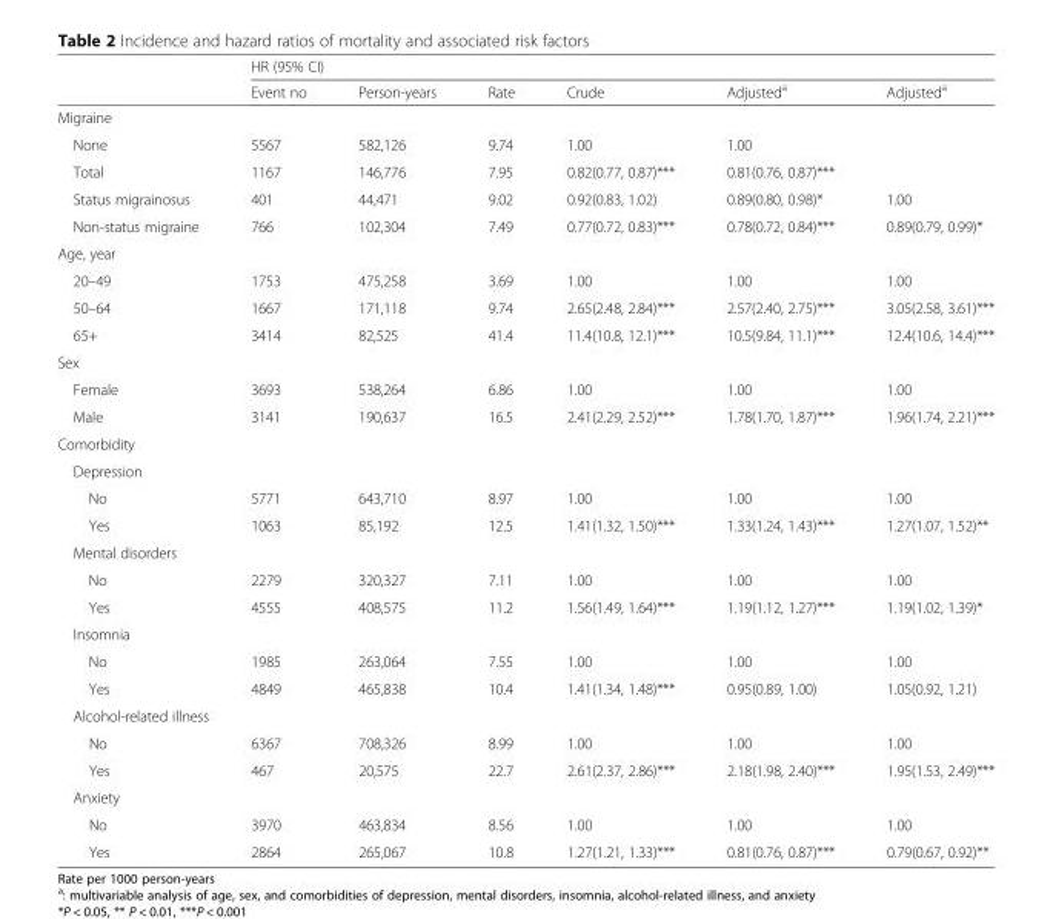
<table><thead><tr><td rowspan="2"></td><td colspan="6">HR (95% CI)</td></tr><tr><td>Event no</td><td>Person-years</td><td>Rate</td><td>Crude</td><td>Adjusted<sup>a</sup></td><td>Adjusted<sup>a</sup></td></tr></thead><tbody><tr><td colspan="7">Migraine</td></tr><tr><td>None</td><td>5567</td><td>582,126</td><td>9.74</td><td>1.00</td><td>1.00</td><td></td></tr><tr><td>Total</td><td>1167</td><td>146,776</td><td>7.95</td><td>0.82(0.77, 0.87)***</td><td>0.81(0.76, 0.87)***</td><td></td></tr><tr><td>Status migrainosus</td><td>401</td><td>44,471</td><td>9.02</td><td>0.92(0.83, 1.02)</td><td>0.89(0.80, 0.98)*</td><td>1.00</td></tr><tr><td>Non-status migraine</td><td>766</td><td>102,304</td><td>7.49</td><td>0.77(0.72, 0.83)***</td><td>0.78(0.72, 0.84)***</td><td>0.89(0.79, 0.99)*</td></tr><tr><td colspan="7">Age, year</td></tr><tr><td>20–49</td><td>1753</td><td>475,258</td><td>3.69</td><td>1.00</td><td>1.00</td><td>1.00</td></tr><tr><td>50–64</td><td>1667</td><td>171,118</td><td>9.74</td><td>2.65(2.48, 2.84)***</td><td>2.57(2.40, 2.75)***</td><td>3.05(2.58, 3.61)***</td></tr><tr><td>65+</td><td>3414</td><td>82,525</td><td>41.4</td><td>11.4(10.8, 12.1)***</td><td>10.5(9.84, 11.1)***</td><td>12.4(10.6, 14.4)***</td></tr><tr><td colspan="7">Sex</td></tr><tr><td>Female</td><td>3693</td><td>538,264</td><td>6.86</td><td>1.00</td><td>1.00</td><td>1.00</td></tr><tr><td>Male</td><td>3141</td><td>190,637</td><td>16.5</td><td>2.41(2.29, 2.52)***</td><td>1.78(1.70, 1.87)***</td><td>1.96(1.74, 2.21)***</td></tr><tr><td colspan="7">Comorbidity</td></tr><tr><td colspan="7">Depression</td></tr><tr><td>No</td><td>5771</td><td>643,710</td><td>8.97</td><td>1.00</td><td>1.00</td><td>1.00</td></tr><tr><td>Yes</td><td>1063</td><td>85,192</td><td>12.5</td><td>1.41(1.32, 1.50)***</td><td>1.33(1.24, 1.43)***</td><td>1.27(1.07, 1.52)**</td></tr><tr><td colspan="7">Mental disorders</td></tr><tr><td>No</td><td>2279</td><td>320,327</td><td>7.11</td><td>1.00</td><td>1.00</td><td>1.00</td></tr><tr><td>Yes</td><td>4555</td><td>408,575</td><td>11.2</td><td>1.56(1.49, 1.64)***</td><td>1.19(1.12, 1.27)***</td><td>1.19(1.02, 1.39)*</td></tr><tr><td colspan="7">Insomnia</td></tr><tr><td>No</td><td>1985</td><td>263,064</td><td>7.55</td><td>1.00</td><td>1.00</td><td>1.00</td></tr><tr><td>Yes</td><td>4849</td><td>465,838</td><td>10.4</td><td>1.41(1.34, 1.48)***</td><td>0.95(0.89, 1.00)</td><td>1.05(0.92, 1.21)</td></tr><tr><td colspan="7">Alcohol-related illness</td></tr><tr><td>No</td><td>6367</td><td>708,326</td><td>8.99</td><td>1.00</td><td>1.00</td><td>1.00</td></tr><tr><td>Yes</td><td>467</td><td>20,575</td><td>22.7</td><td>2.61(2.37, 2.86)***</td><td>2.18(1.98, 2.40)***</td><td>1.95(1.53, 2.49)***</td></tr><tr><td colspan="7">Anxiety</td></tr><tr><td>No</td><td>3970</td><td>463,834</td><td>8.56</td><td>1.00</td><td>1.00</td><td>1.00</td></tr><tr><td>Yes</td><td>2864</td><td>265,067</td><td>10.8</td><td>1.27(1.21, 1.33)***</td><td>0.81(0.76, 0.87)***</td><td>0.79(0.67, 0.92)**</td></tr></tbody></table>